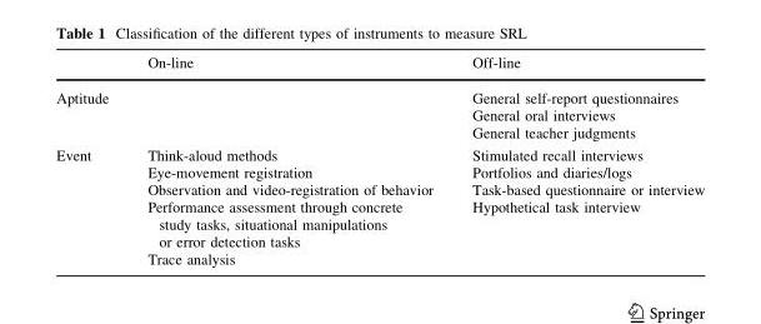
<table><thead><tr><td></td><td>On-line</td><td>Off-line</td></tr></thead><tbody><tr><td>Aptitude</td><td></td><td>General self-report questionnaires General oral interviews General teacher judgments</td></tr><tr><td>Event</td><td>Think-aloud methods Eye-movement registration Observation and video-registration of behavior Performance assessment through concrete study tasks, situational manipulations or error detection tasks Trace analysis</td><td>Stimulated recall interviews Portfolios and diaries/logs Task-based questionnaire or interview Hypothetical task interview</td></tr></tbody></table>